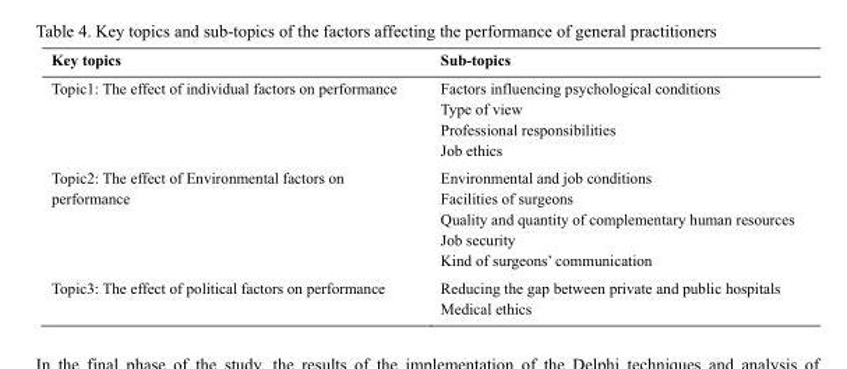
<table><thead><tr><td>Key topics</td><td>Sub-topics</td></tr></thead><tbody><tr><td rowspan="4">Topic1: The effect of individual factors on performance</td><td>Factors influencing psychological conditions</td></tr><tr><td>Type of view</td></tr><tr><td>Professional responsibilities</td></tr><tr><td>Job ethics</td></tr><tr><td rowspan="5">Topic2: The effect of Environmental factors on performance</td><td>Environmental and job conditions</td></tr><tr><td>Facilities of surgeons</td></tr><tr><td>Quality and quantity of complementary human resources</td></tr><tr><td>Job security</td></tr><tr><td>Kind of surgeons’ communication</td></tr><tr><td>Topic3: The effect of political factors on performance</td><td>Reducing the gap between private and public hospitals Medical ethics</td></tr></tbody></table>